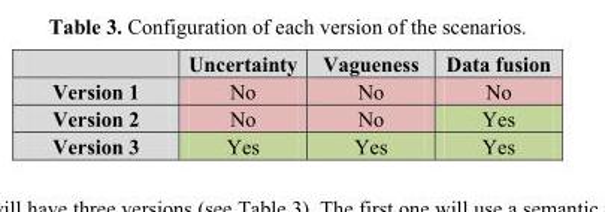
<table><thead><tr><td></td><td>Uncertainty</td><td>Vagueness</td><td>Data fusion</td></tr></thead><tbody><tr><td>Version 1</td><td>No</td><td>No</td><td>No</td></tr><tr><td>Version 2</td><td>No</td><td>No</td><td>Yes</td></tr><tr><td>Version 3</td><td>Yes</td><td>Yes</td><td>Yes</td></tr></tbody></table>